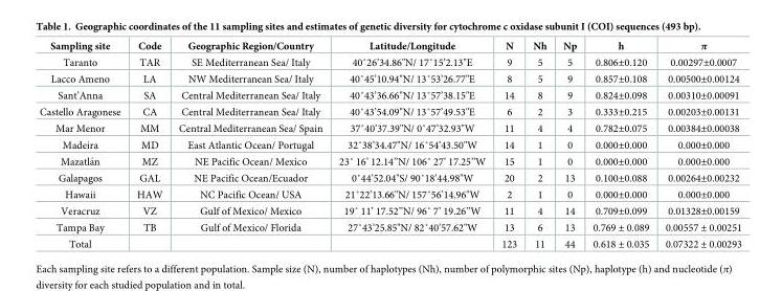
<table><thead><tr><td>Sampling site</td><td>Code</td><td>Geographic Region/Country</td><td>Latitude/Longitude</td><td>N</td><td>Nh</td><td>Np</td><td>h</td><td>π</td></tr></thead><tbody><tr><td>Taranto</td><td>TAR</td><td>SE Mediterranean Sea/ Italy</td><td>40˚26’34.86&quot;N/ 17˚15’2.13&quot;E</td><td>9</td><td>5</td><td>5</td><td>0.806±0.120</td><td>0.00297±0.0007</td></tr><tr><td>Lacco Ameno</td><td>LA</td><td>NW Mediterranean Sea/ Italy</td><td>40˚45’10.94&quot;N/ 13˚53’26.77&quot;E</td><td>8</td><td>5</td><td>9</td><td>0.857±0.108</td><td>0.00500±0.00124</td></tr><tr><td>Sant’Anna</td><td>SA</td><td>Central Mediterranean Sea/ Italy</td><td>40˚43’36.66&quot;N/ 13˚57’38.15&quot;E</td><td>14</td><td>8</td><td>9</td><td>0.824±0.098</td><td>0.00310±0.00091</td></tr><tr><td>Castello Aragonese</td><td>CA</td><td>Central Mediterranean Sea/ Italy</td><td>40˚43’54.09&quot;N/ 13˚57’49.53&quot;E</td><td>6</td><td>2</td><td>3</td><td>0.333±0.215</td><td>0.00203±0.00131</td></tr><tr><td>Mar Menor</td><td>MM</td><td>Central Mediterranean Sea/ Spain</td><td>37˚40’37.39&quot;N/ 0˚47’32.93&quot;W</td><td>11</td><td>4</td><td>4</td><td>0.782±0.075</td><td>0.00384±0.00038</td></tr><tr><td>Madeira</td><td>MD</td><td>East Atlantic Ocean/ Portugal</td><td>32˚38’34.47&quot;N/ 16˚54’43.50&quot;W</td><td>14</td><td>1</td><td>0</td><td>0.000±0.000</td><td>0.000±0.000</td></tr><tr><td>Mazatla´n</td><td>MZ</td><td>NE Pacific Ocean/ Mexico</td><td>23˚ 16’ 12.14’’N/ 106˚ 27’ 17.25’’W</td><td>15</td><td>1</td><td>0</td><td>0.000±0.000</td><td>0.000±0.000</td></tr><tr><td>Galapagos</td><td>GAL</td><td>NE Pacific Ocean/Ecuador</td><td>0˚44’52.04&quot;S/ 90˚18’44.98&quot;W</td><td>20</td><td>2</td><td>13</td><td>0.100±0.088</td><td>0.00264±0.00232</td></tr><tr><td>Hawaii</td><td>HAW</td><td>NC Pacific Ocean/ USA</td><td>21˚22’13.66&quot;N/ 157˚56’14.96&quot;W</td><td>2</td><td>1</td><td>0</td><td>0.000±0.000</td><td>0.000±0.000</td></tr><tr><td>Veracruz</td><td>VZ</td><td>Gulf of Mexico/ Mexico</td><td>19˚ 11’ 17.52’’N/ 96˚ 7’ 19.26’’W</td><td>11</td><td>4</td><td>14</td><td>0.709±0.099</td><td>0.01328±0.00159</td></tr><tr><td>Tampa Bay</td><td>TB</td><td>Gulf of Mexico/ Florida</td><td>27˚43’25.85&quot;N/ 82˚40’57.62&quot;W</td><td>13</td><td>6</td><td>13</td><td>0.769 ± 0.089</td><td>0.00557 ± 0.00251</td></tr><tr><td>Total</td><td></td><td></td><td></td><td>123</td><td>11</td><td>44</td><td>0.618 ± 0.035</td><td>0.07322 ± 0.00293</td></tr></tbody></table>